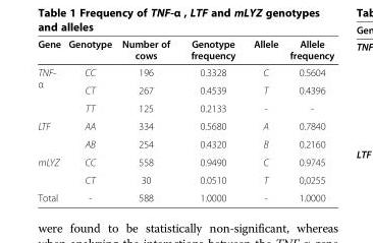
<table><thead><tr><td>Gene</td><td>Genotype</td><td>Number of cows</td><td>Genotype frequency</td><td>Allele</td><td>Allele frequency</td></tr></thead><tbody><tr><td rowspan="3">TNF- α</td><td>CC</td><td>196</td><td>0.3328</td><td>C</td><td>0.5604</td></tr><tr><td>CT</td><td>267</td><td>0.4539</td><td>T</td><td>0.4396</td></tr><tr><td>TT</td><td>125</td><td>0.2133</td><td>-</td><td>-</td></tr><tr><td rowspan="2">LTF</td><td>AA</td><td>334</td><td>0.5680</td><td>A</td><td>0.7840</td></tr><tr><td>AB</td><td>254</td><td>0.4320</td><td>B</td><td>0.2160</td></tr><tr><td rowspan="2">mLYZ</td><td>CC</td><td>558</td><td>0.9490</td><td>C</td><td>0.9745</td></tr><tr><td>CT</td><td>30</td><td>0.0510</td><td>T</td><td>0,0255</td></tr><tr><td>Total</td><td>-</td><td>588</td><td>1.0000</td><td>-</td><td>1.0000</td></tr></tbody></table>